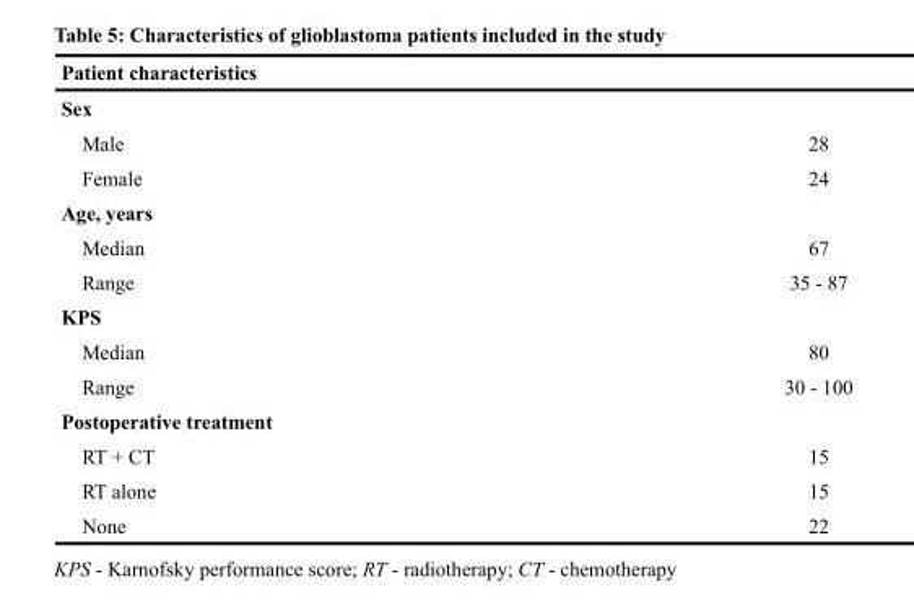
<table><thead><tr><td>Patient characteristics</td><td></td></tr></thead><tbody><tr><td colspan="2">Sex</td></tr><tr><td>Male</td><td>28</td></tr><tr><td>Female</td><td>24</td></tr><tr><td colspan="2">Age, years</td></tr><tr><td>Median</td><td>67</td></tr><tr><td>Range</td><td>35 - 87</td></tr><tr><td colspan="2">KPS</td></tr><tr><td>Median</td><td>80</td></tr><tr><td>Range</td><td>30 - 100</td></tr><tr><td colspan="2">Postoperative treatment</td></tr><tr><td>RT + CT</td><td>15</td></tr><tr><td>RT alone</td><td>15</td></tr><tr><td>None</td><td>22</td></tr></tbody></table>